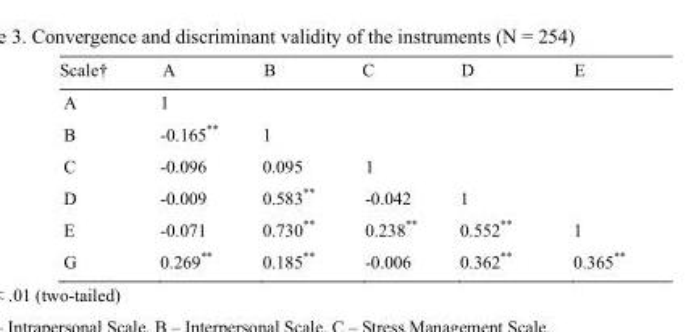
<table><thead><tr><td>Scale†</td><td>A</td><td>B</td><td>C</td><td>D</td><td>E</td></tr></thead><tbody><tr><td>A</td><td>1</td><td></td><td></td><td></td><td></td></tr><tr><td>B</td><td>-0.165**</td><td>1</td><td></td><td></td><td></td></tr><tr><td>C</td><td>-0.096</td><td>0.095</td><td>1</td><td></td><td></td></tr><tr><td>D</td><td>-0.009</td><td>0.583**</td><td>-0.042</td><td>1</td><td></td></tr><tr><td>E</td><td>-0.071</td><td>0.730**</td><td>0.238**</td><td>0.552**</td><td>1</td></tr><tr><td>G</td><td>0.269**</td><td>0.185**</td><td>-0.006</td><td>0.362**</td><td>0.365**</td></tr></tbody></table>